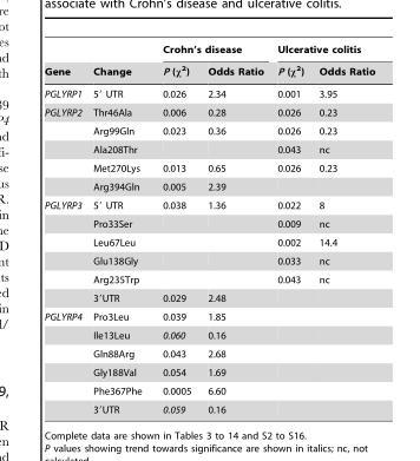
<table><thead><tr><td rowspan="2">Gene</td><td rowspan="2">Change</td><td colspan="2">Crohn’s disease</td><td colspan="2">Ulcerative colitis</td></tr><tr><td>P (χ<sup>2</sup>)</td><td>Odds Ratio</td><td>P (χ<sup>2</sup>)</td><td>Odds Ratio</td></tr></thead><tbody><tr><td>PGLYRP1</td><td>5′ UTR</td><td>0.026</td><td>2.34</td><td>0.001</td><td>3.95</td></tr><tr><td rowspan="5">PGLYRP2</td><td>Thr46Ala</td><td>0.006</td><td>0.28</td><td>0.026</td><td>0.23</td></tr><tr><td>Arg99Gln</td><td>0.023</td><td>0.36</td><td>0.026</td><td>0.23</td></tr><tr><td>Ala208Thr</td><td></td><td></td><td>0.043</td><td>nc</td></tr><tr><td>Met270Lys</td><td>0.013</td><td>0.65</td><td>0.026</td><td>0.23</td></tr><tr><td>Arg394Gln</td><td>0.005</td><td>2.39</td><td></td><td></td></tr><tr><td rowspan="6">PGLYRP3</td><td>5′ UTR</td><td>0.038</td><td>1.36</td><td>0.022</td><td>8</td></tr><tr><td>Pro33Ser</td><td></td><td></td><td>0.009</td><td>nc</td></tr><tr><td>Leu67Leu</td><td></td><td></td><td>0.002</td><td>14.4</td></tr><tr><td>Glu138Gly</td><td></td><td></td><td>0.033</td><td>nc</td></tr><tr><td>Arg235Trp</td><td></td><td></td><td>0.043</td><td>nc</td></tr><tr><td>3′UTR</td><td>0.029</td><td>2.48</td><td></td><td></td></tr><tr><td rowspan="6">PGLYRP4</td><td>Pro3Leu</td><td>0.039</td><td>1.85</td><td></td><td></td></tr><tr><td>Ile13Leu</td><td>0.060</td><td>0.16</td><td></td><td></td></tr><tr><td>Gln88Arg</td><td>0.043</td><td>2.68</td><td></td><td></td></tr><tr><td>Gly188Val</td><td>0.054</td><td>1.69</td><td></td><td></td></tr><tr><td>Phe367Phe</td><td>0.0005</td><td>6.60</td><td></td><td></td></tr><tr><td>3′UTR</td><td>0.059</td><td>0.16</td><td></td><td></td></tr></tbody></table>